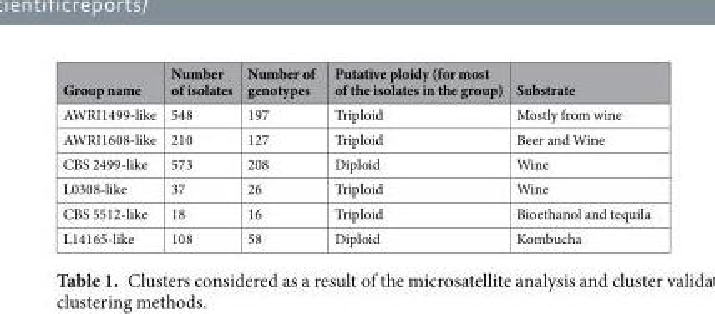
<table><thead><tr><td>Group name</td><td>Number of isolates</td><td>Number of genotypes</td><td>Putative ploidy (for most of the isolates in the group)</td><td>Substrate</td></tr></thead><tbody><tr><td>AWRI1499-like</td><td>548</td><td>197</td><td>Triploid</td><td>Mostly from wine</td></tr><tr><td>AWRI1608-like</td><td>210</td><td>127</td><td>Triploid</td><td>Beer and Wine</td></tr><tr><td>CBS 2499-like</td><td>573</td><td>208</td><td>Diploid</td><td>Wine</td></tr><tr><td>L0308-like</td><td>37</td><td>26</td><td>Triploid</td><td>Wine</td></tr><tr><td>CBS 5512-like</td><td>18</td><td>16</td><td>Triploid</td><td>Bioethanol and tequila</td></tr><tr><td>L14165-like</td><td>108</td><td>58</td><td>Diploid</td><td>Kombucha</td></tr></tbody></table>